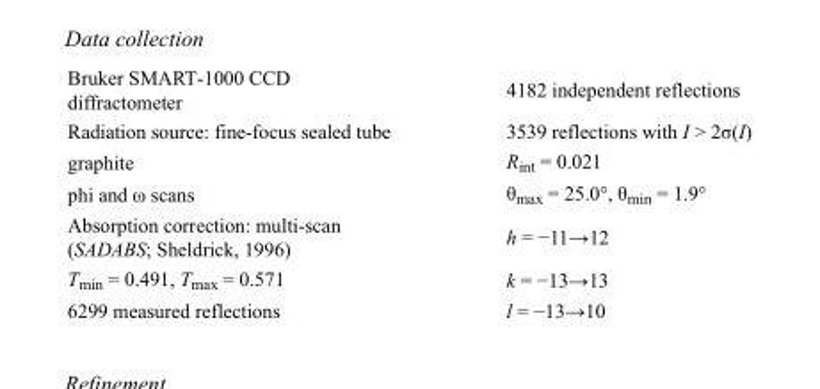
<table><tbody><tr><td>Bruker SMART-1000 CCD diffractometer</td><td>4182 independent reflections</td></tr><tr><td>Radiation source: fine-focus sealed tube</td><td>3539 reflections with I &gt; 2σ(I)</td></tr><tr><td>graphite</td><td>R<sub>int</sub> = 0.021</td></tr><tr><td>phi and ω scans</td><td>θ<sub>max</sub> = 25.0°, θ<sub>min</sub> = 1.9°</td></tr><tr><td>Absorption correction: multi-scan (SADABS; Sheldrick, 1996)</td><td>h = −11→12</td></tr><tr><td>T<sub>min</sub> = 0.491, T<sub>max</sub> = 0.571</td><td>k = −13→13</td></tr><tr><td>6299 measured reflections</td><td>l = −13→10</td></tr></tbody></table>